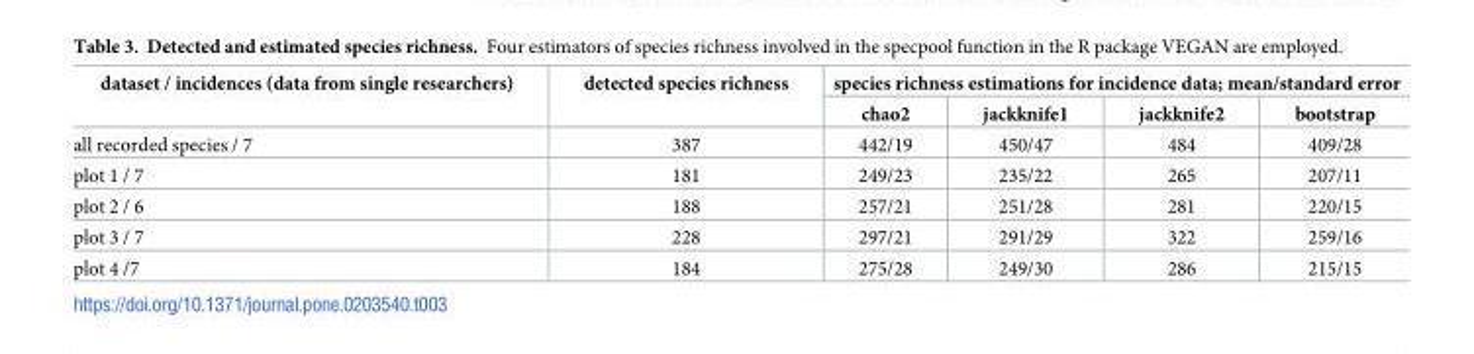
<table><thead><tr><td rowspan="2">dataset / incidences (data from single researchers)</td><td rowspan="2">detected species richness</td><td colspan="4">species richness estimations for incidence data; mean/standard error</td></tr><tr><td>chao2</td><td>jackknife1</td><td>jackknife2</td><td>bootstrap</td></tr></thead><tbody><tr><td>all recorded species / 7</td><td>387</td><td>442/19</td><td>450/47</td><td>484</td><td>409/28</td></tr><tr><td>plot 1 / 7</td><td>181</td><td>249/23</td><td>235/22</td><td>265</td><td>207/11</td></tr><tr><td>plot 2 / 6</td><td>188</td><td>257/21</td><td>251/28</td><td>281</td><td>220/15</td></tr><tr><td>plot 3 / 7</td><td>228</td><td>297/21</td><td>291/29</td><td>322</td><td>259/16</td></tr><tr><td>plot 4 /7</td><td>184</td><td>275/28</td><td>249/30</td><td>286</td><td>215/15</td></tr></tbody></table>